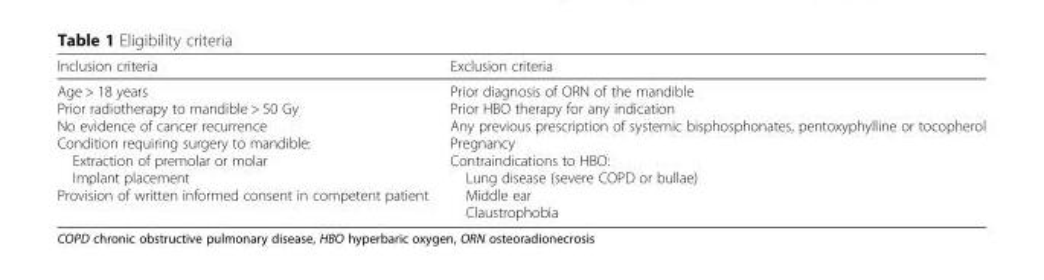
<table><thead><tr><td>Inclusion criteria</td><td>Exclusion criteria</td></tr></thead><tbody><tr><td>Age &gt; 18 years Prior radiotherapy to mandible &gt; 50 Gy No evidence of cancer recurrence Condition requiring surgery to mandible: Extraction of premolar or molar Implant placement Provision of written informed consent in competent patient</td><td>Prior diagnosis of ORN of the mandible Prior HBO therapy for any indication Any previous prescription of systemic bisphosphonates, pentoxyphylline or tocopherol Pregnancy Contraindications to HBO: Lung disease (severe COPD or bullae) Middle ear Claustrophobia</td></tr></tbody></table>